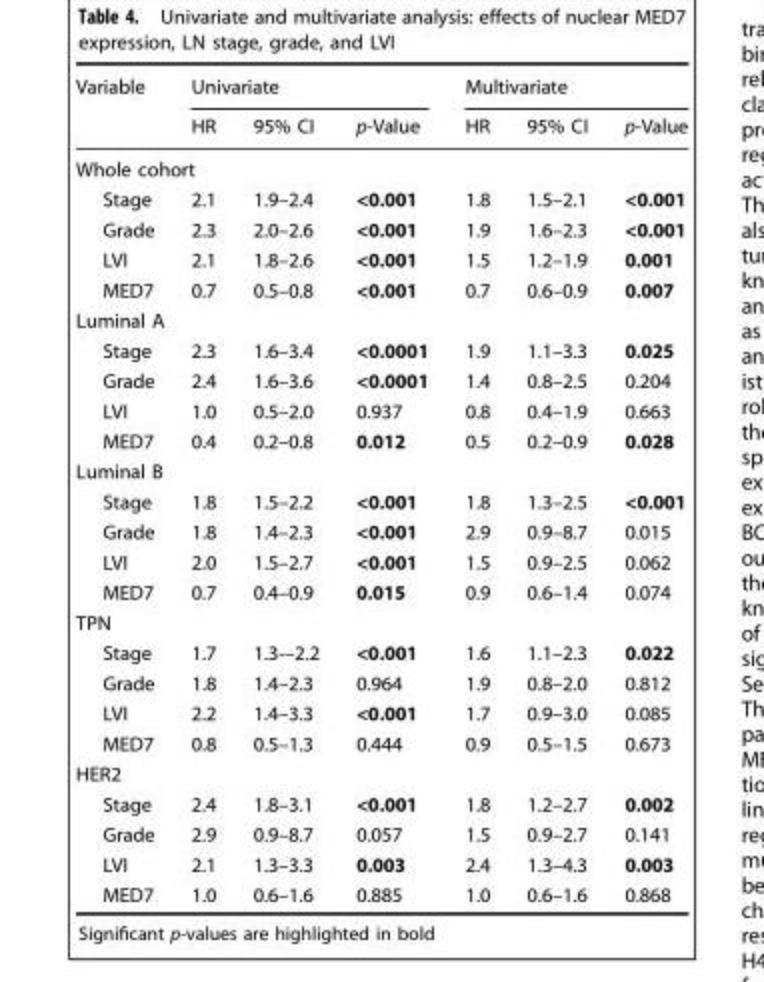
<table><thead><tr><td rowspan="2">Variable</td><td colspan="3">Univariate</td><td colspan="3">Multivariate</td></tr><tr><td>HR</td><td>95% CI</td><td>p-Value</td><td>HR</td><td>95% CI</td><td>p-Value</td></tr></thead><tbody><tr><td colspan="7">Whole cohort</td></tr><tr><td>Stage</td><td>2.1</td><td>1.9–2.4</td><td>&lt;0.001</td><td>1.8</td><td>1.5–2.1</td><td>&lt;0.001</td></tr><tr><td>Grade</td><td>2.3</td><td>2.0–2.6</td><td>&lt;0.001</td><td>1.9</td><td>1.6–2.3</td><td>&lt;0.001</td></tr><tr><td>LVI</td><td>2.1</td><td>1.8–2.6</td><td>&lt;0.001</td><td>1.5</td><td>1.2–1.9</td><td>0.001</td></tr><tr><td>MED7</td><td>0.7</td><td>0.5–0.8</td><td>&lt;0.001</td><td>0.7</td><td>0.6–0.9</td><td>0.007</td></tr><tr><td colspan="7">Luminal A</td></tr><tr><td>Stage</td><td>2.3</td><td>1.6–3.4</td><td>&lt;0.0001</td><td>1.9</td><td>1.1–3.3</td><td>0.025</td></tr><tr><td>Grade</td><td>2.4</td><td>1.6–3.6</td><td>&lt;0.0001</td><td>1.4</td><td>0.8–2.5</td><td>0.204</td></tr><tr><td>LVI</td><td>1.0</td><td>0.5–2.0</td><td>0.937</td><td>0.8</td><td>0.4–1.9</td><td>0.663</td></tr><tr><td>MED7</td><td>0.4</td><td>0.2–0.8</td><td>0.012</td><td>0.5</td><td>0.2–0.9</td><td>0.028</td></tr><tr><td colspan="7">Luminal B</td></tr><tr><td>Stage</td><td>1.8</td><td>1.5–2.2</td><td>&lt;0.001</td><td>1.8</td><td>1.3–2.5</td><td>&lt;0.001</td></tr><tr><td>Grade</td><td>1.8</td><td>1.4–2.3</td><td>&lt;0.001</td><td>2.9</td><td>0.9–8.7</td><td>0.015</td></tr><tr><td>LVI</td><td>2.0</td><td>1.5–2.7</td><td>&lt;0.001</td><td>1.5</td><td>0.9–2.5</td><td>0.062</td></tr><tr><td>MED7</td><td>0.7</td><td>0.4–0.9</td><td>0.015</td><td>0.9</td><td>0.6–1.4</td><td>0.074</td></tr><tr><td colspan="7">TPN</td></tr><tr><td>Stage</td><td>1.7</td><td>1.3-–2.2</td><td>&lt;0.001</td><td>1.6</td><td>1.1–2.3</td><td>0.022</td></tr><tr><td>Grade</td><td>1.8</td><td>1.4–2.3</td><td>0.964</td><td>1.9</td><td>0.8–2.0</td><td>0.812</td></tr><tr><td>LVI</td><td>2.2</td><td>1.4–3.3</td><td>&lt;0.001</td><td>1.7</td><td>0.9–3.0</td><td>0.085</td></tr><tr><td>MED7</td><td>0.8</td><td>0.5–1.3</td><td>0.444</td><td>0.9</td><td>0.5–1.5</td><td>0.673</td></tr><tr><td colspan="7">HER2</td></tr><tr><td>Stage</td><td>2.4</td><td>1.8–3.1</td><td>&lt;0.001</td><td>1.8</td><td>1.2–2.7</td><td>0.002</td></tr><tr><td>Grade</td><td>2.9</td><td>0.9–8.7</td><td>0.057</td><td>1.5</td><td>0.9–2.7</td><td>0.141</td></tr><tr><td>LVI</td><td>2.1</td><td>1.3–3.3</td><td>0.003</td><td>2.4</td><td>1.3–4.3</td><td>0.003</td></tr><tr><td>MED7</td><td>1.0</td><td>0.6–1.6</td><td>0.885</td><td>1.0</td><td>0.6–1.6</td><td>0.868</td></tr></tbody></table>